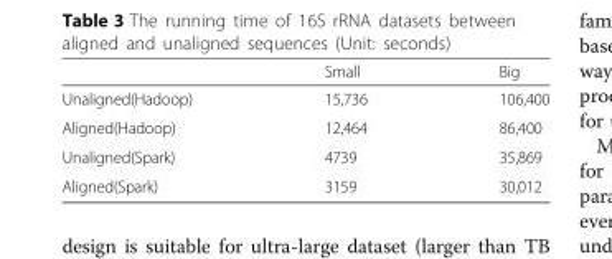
<table><thead><tr><td></td><td>Small</td><td>Big</td></tr></thead><tbody><tr><td>Unaligned(Hadoop)</td><td>15,736</td><td>106,400</td></tr><tr><td>Aligned(Hadoop)</td><td>12,464</td><td>86,400</td></tr><tr><td>Unaligned(Spark)</td><td>4739</td><td>35,869</td></tr><tr><td>Aligned(Spark)</td><td>3159</td><td>30,012</td></tr></tbody></table>